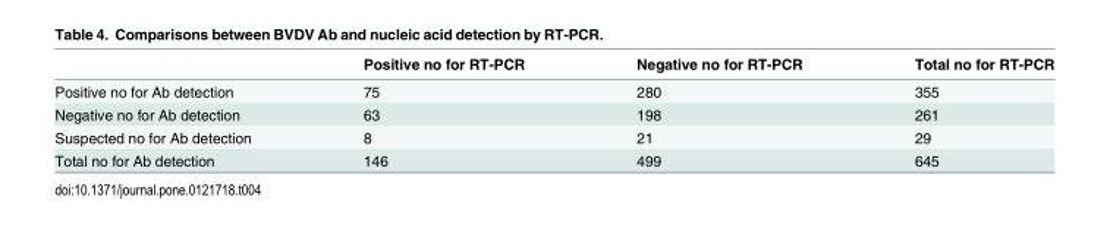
<table><thead><tr><td></td><td>Positive no for RT-PCR</td><td>Negative no for RT-PCR</td><td>Total no for RT-PCR</td></tr></thead><tbody><tr><td>Positive no for Ab detection</td><td>75</td><td>280</td><td>355</td></tr><tr><td>Negative no for Ab detection</td><td>63</td><td>198</td><td>261</td></tr><tr><td>Suspected no for Ab detection</td><td>8</td><td>21</td><td>29</td></tr><tr><td>Total no for Ab detection</td><td>146</td><td>499</td><td>645</td></tr></tbody></table>